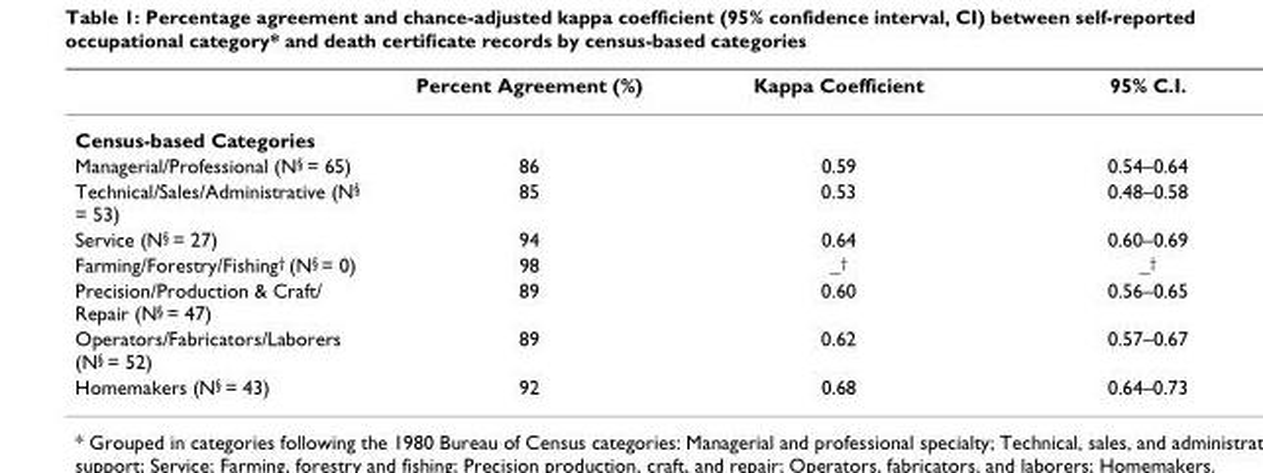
<table><thead><tr><td></td><td>Percent Agreement (%)</td><td>Kappa Coefficient</td><td>95% C.I.</td></tr></thead><tbody><tr><td colspan="4">Census-based Categories</td></tr><tr><td>Managerial/Professional (N<sup>§</sup> = 65)</td><td>86</td><td>0.59</td><td>0.54–0.64</td></tr><tr><td>Technical/Sales/Administrative (N<sup>§</sup> = 53)</td><td>85</td><td>0.53</td><td>0.48–0.58</td></tr><tr><td>Service (N<sup>§</sup> = 27)</td><td>94</td><td>0.64</td><td>0.60–0.69</td></tr><tr><td>Farming/Forestry/Fishing<sup>†</sup> (N<sup>§</sup> = 0)</td><td>98</td><td>_<sup>†</sup></td><td>_<sup>†</sup></td></tr><tr><td>Precision/Production &amp; Craft/ Repair (N<sup>§</sup> = 47)</td><td>89</td><td>0.60</td><td>0.56–0.65</td></tr><tr><td>Operators/Fabricators/Laborers (N<sup>§</sup> = 52)</td><td>89</td><td>0.62</td><td>0.57–0.67</td></tr><tr><td>Homemakers (N<sup>§</sup> = 43)</td><td>92</td><td>0.68</td><td>0.64–0.73</td></tr></tbody></table>